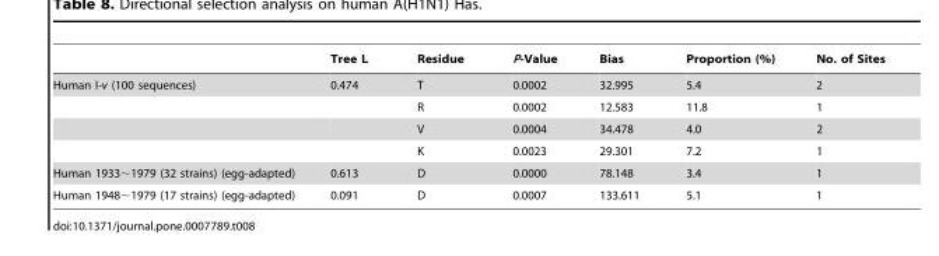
<table><thead><tr><td></td><td>Tree L</td><td>Residue</td><td>P-Value</td><td>Bias</td><td>Proportion (%)</td><td>No. of Sites</td></tr></thead><tbody><tr><td rowspan="4">Human I-v (100 sequences)</td><td>0.474</td><td>T</td><td>0.0002</td><td>32.995</td><td>5.4</td><td>2</td></tr><tr><td></td><td>R</td><td>0.0002</td><td>12.583</td><td>11.8</td><td>1</td></tr><tr><td></td><td>V</td><td>0.0004</td><td>34.478</td><td>4.0</td><td>2</td></tr><tr><td></td><td>K</td><td>0.0023</td><td>29.301</td><td>7.2</td><td>1</td></tr><tr><td>Human 1933∼1979 (32 strains) (egg-adapted)</td><td>0.613</td><td>D</td><td>0.0000</td><td>78.148</td><td>3.4</td><td>1</td></tr><tr><td>Human 1948∼1979 (17 strains) (egg-adapted)</td><td>0.091</td><td>D</td><td>0.0007</td><td>133.611</td><td>5.1</td><td>1</td></tr></tbody></table>